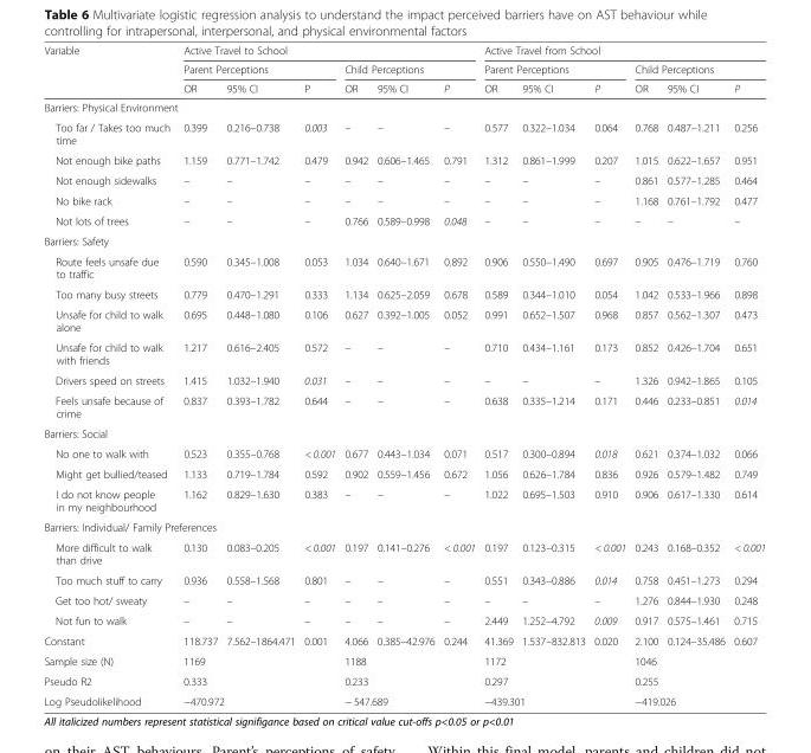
<table><thead><tr><td rowspan="3">Variable</td><td colspan="6">Active Travel to School</td><td colspan="6">Active Travel from School</td></tr><tr><td colspan="3">Parent Perceptions</td><td colspan="3">Child Perceptions</td><td colspan="3">Parent Perceptions</td><td colspan="3">Child Perceptions</td></tr><tr><td>OR</td><td>95% CI</td><td>P</td><td>OR</td><td>95% CI</td><td>P</td><td>OR</td><td>95% CI</td><td>P</td><td>OR</td><td>95% CI</td><td>P</td></tr></thead><tbody><tr><td colspan="13">Barriers: Physical Environment</td></tr><tr><td>Too far / Takes too much time</td><td>0.399</td><td>0.216–0.738</td><td>0.003</td><td>–</td><td>–</td><td>–</td><td>0.577</td><td>0.322–1.034</td><td>0.064</td><td>0.768</td><td>0.487–1.211</td><td>0.256</td></tr><tr><td>Not enough bike paths</td><td>1.159</td><td>0.771–1.742</td><td>0.479</td><td>0.942</td><td>0.606–1.465</td><td>0.791</td><td>1.312</td><td>0.861–1.999</td><td>0.207</td><td>1.015</td><td>0.622–1.657</td><td>0.951</td></tr><tr><td>Not enough sidewalks</td><td>–</td><td>–</td><td>–</td><td>–</td><td>–</td><td>–</td><td>–</td><td>–</td><td>–</td><td>0.861</td><td>0.577–1.285</td><td>0.464</td></tr><tr><td>No bike rack</td><td>–</td><td>–</td><td>–</td><td>–</td><td>–</td><td>–</td><td>–</td><td>–</td><td>–</td><td>1.168</td><td>0.761–1.792</td><td>0.477</td></tr><tr><td>Not lots of trees</td><td>–</td><td>–</td><td>–</td><td>0.766</td><td>0.589–0.998</td><td>0.048</td><td>–</td><td>–</td><td>–</td><td>–</td><td>–</td><td>–</td></tr><tr><td colspan="13">Barriers: Safety</td></tr><tr><td>Route feels unsafe due to traffic</td><td>0.590</td><td>0.345–1.008</td><td>0.053</td><td>1.034</td><td>0.640–1.671</td><td>0.892</td><td>0.906</td><td>0.550–1.490</td><td>0.697</td><td>0.905</td><td>0.476–1.719</td><td>0.760</td></tr><tr><td>Too many busy streets</td><td>0.779</td><td>0.470–1.291</td><td>0.333</td><td>1.134</td><td>0.625–2.059</td><td>0.678</td><td>0.589</td><td>0.344–1.010</td><td>0.054</td><td>1.042</td><td>0.533–1.966</td><td>0.898</td></tr><tr><td>Unsafe for child to walk alone</td><td>0.695</td><td>0.448–1.080</td><td>0.106</td><td>0.627</td><td>0.392–1.005</td><td>0.052</td><td>0.991</td><td>0.652–1.507</td><td>0.968</td><td>0.857</td><td>0.562–1.307</td><td>0.473</td></tr><tr><td>Unsafe for child to walk with friends</td><td>1.217</td><td>0.616–2.405</td><td>0.572</td><td>–</td><td>–</td><td>–</td><td>0.710</td><td>0.434–1.161</td><td>0.173</td><td>0.852</td><td>0.426–1.704</td><td>0.651</td></tr><tr><td>Drivers speed on streets</td><td>1.415</td><td>1.032–1.940</td><td>0.031</td><td>–</td><td>–</td><td>–</td><td>–</td><td>–</td><td>–</td><td>1.326</td><td>0.942–1.865</td><td>0.105</td></tr><tr><td>Feels unsafe because of crime</td><td>0.837</td><td>0.393–1.782</td><td>0.644</td><td>–</td><td>–</td><td>–</td><td>0.638</td><td>0.335–1.214</td><td>0.171</td><td>0.446</td><td>0.233–0.851</td><td>0.014</td></tr><tr><td colspan="13">Barriers: Social</td></tr><tr><td>No one to walk with</td><td>0.523</td><td>0.355–0.768</td><td>&lt; 0.001</td><td>0.677</td><td>0.443–1.034</td><td>0.071</td><td>0.517</td><td>0.300–0.894</td><td>0.018</td><td>0.621</td><td>0.374–1.032</td><td>0.066</td></tr><tr><td>Might get bullied/teased</td><td>1.133</td><td>0.719–1.784</td><td>0.592</td><td>0.902</td><td>0.559–1.456</td><td>0.672</td><td>1.056</td><td>0.626–1.784</td><td>0.836</td><td>0.926</td><td>0.579–1.482</td><td>0.749</td></tr><tr><td>I do not know people in my neighbourhood</td><td>1.162</td><td>0.829–1.630</td><td>0.383</td><td>–</td><td>–</td><td>–</td><td>1.022</td><td>0.695–1.503</td><td>0.910</td><td>0.906</td><td>0.617–1.330</td><td>0.614</td></tr><tr><td colspan="13">Barriers: Individual/ Family Preferences</td></tr><tr><td>More difficult to walk than drive</td><td>0.130</td><td>0.083–0.205</td><td>&lt; 0.001</td><td>0.197</td><td>0.141–0.276</td><td>&lt; 0.001</td><td>0.197</td><td>0.123–0.315</td><td>&lt; 0.001</td><td>0.243</td><td>0.168–0.352</td><td>&lt; 0.001</td></tr><tr><td>Too much stuff to carry</td><td>0.936</td><td>0.558–1.568</td><td>0.801</td><td>–</td><td>–</td><td>–</td><td>0.551</td><td>0.343–0.886</td><td>0.014</td><td>0.758</td><td>0.451–1.273</td><td>0.294</td></tr><tr><td>Get too hot/ sweaty</td><td>–</td><td>–</td><td>–</td><td>–</td><td>–</td><td>–</td><td>–</td><td>–</td><td>–</td><td>1.276</td><td>0.844–1.930</td><td>0.248</td></tr><tr><td>Not fun to walk</td><td>–</td><td>–</td><td>–</td><td>–</td><td>–</td><td>–</td><td>2.449</td><td>1.252–4.792</td><td>0.009</td><td>0.917</td><td>0.575–1.461</td><td>0.715</td></tr><tr><td>Constant</td><td>118.737</td><td>7.562–1864.471</td><td>0.001</td><td>4.066</td><td>0.385–42.976</td><td>0.244</td><td>41.369</td><td>1.537–832.813</td><td>0.020</td><td>2.100</td><td>0.124–35.486</td><td>0.607</td></tr><tr><td>Sample size (N)</td><td colspan="3">1169</td><td colspan="3">1188</td><td colspan="3">1172</td><td colspan="3">1046</td></tr><tr><td>Pseudo R2</td><td colspan="3">0.333</td><td colspan="3">0.233</td><td colspan="3">0.297</td><td colspan="3">0.255</td></tr><tr><td>Log Pseudolikelihood</td><td colspan="3">−470.972</td><td colspan="3">− 547.689</td><td colspan="3">−439.301</td><td colspan="3">−419.026</td></tr></tbody></table>